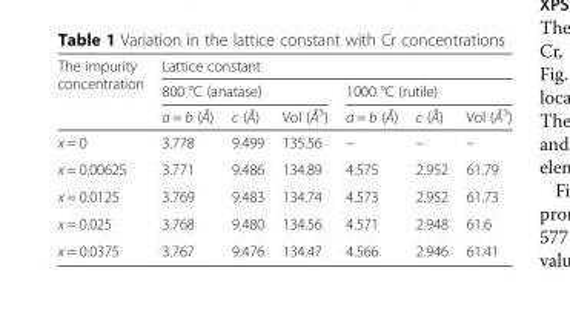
<table><thead><tr><td rowspan="3">The impurity concentration</td><td colspan="6">Lattice constant</td></tr><tr><td colspan="3">800 °C (anatase)</td><td colspan="3">1000 °C (rutile)</td></tr><tr><td>a = b (Å)</td><td>c (Å)</td><td>Vol (Å<sup>3</sup>)</td><td>a = b (Å)</td><td>c (Å)</td><td>Vol (Å<sup>3</sup>)</td></tr></thead><tbody><tr><td>x = 0</td><td>3.778</td><td>9.499</td><td>135.56</td><td>–</td><td>–</td><td>–</td></tr><tr><td>x = 0.00625</td><td>3.771</td><td>9.486</td><td>134.89</td><td>4.575</td><td>2.952</td><td>61.79</td></tr><tr><td>x = 0.0125</td><td>3.769</td><td>9.483</td><td>134.74</td><td>4.573</td><td>2.952</td><td>61.73</td></tr><tr><td>x = 0.025</td><td>3.768</td><td>9.480</td><td>134.56</td><td>4.571</td><td>2.948</td><td>61.6</td></tr><tr><td>x = 0.0375</td><td>3.767</td><td>9.476</td><td>134.47</td><td>4.566</td><td>2.946</td><td>61.41</td></tr></tbody></table>